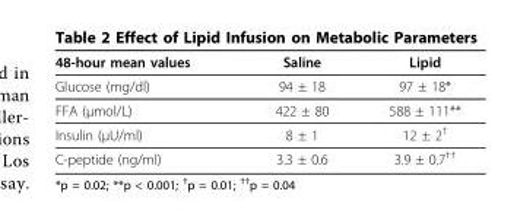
<table><thead><tr><td>48-hour mean values</td><td>Saline</td><td>Lipid</td></tr></thead><tbody><tr><td>Glucose (mg/dl)</td><td>94 ± 18</td><td>97 ± 18*</td></tr><tr><td>FFA (μmol/L)</td><td>422 ± 80</td><td>588 ± 111**</td></tr><tr><td>Insulin (μU/ml)</td><td>8 ± 1</td><td>12 ± 2<sup>†</sup></td></tr><tr><td>C-peptide (ng/ml)</td><td>3.3 ± 0.6</td><td>3.9 ± 0.7<sup>††</sup></td></tr></tbody></table>